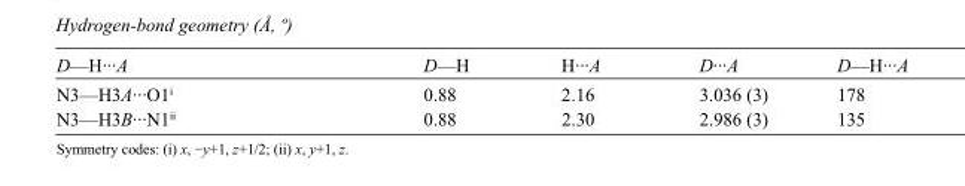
<table><tbody><tr><td>D—H···A</td><td>D—H</td><td>H···A</td><td>D···A</td><td>D—H···A</td></tr><tr><td>N3—H3A···O1<sup>i</sup></td><td>0.88</td><td>2.16</td><td>3.036 (3)</td><td>178</td></tr><tr><td>N3—H3B···N1<sup>ii</sup></td><td>0.88</td><td>2.30</td><td>2.986 (3)</td><td>135</td></tr></tbody></table>